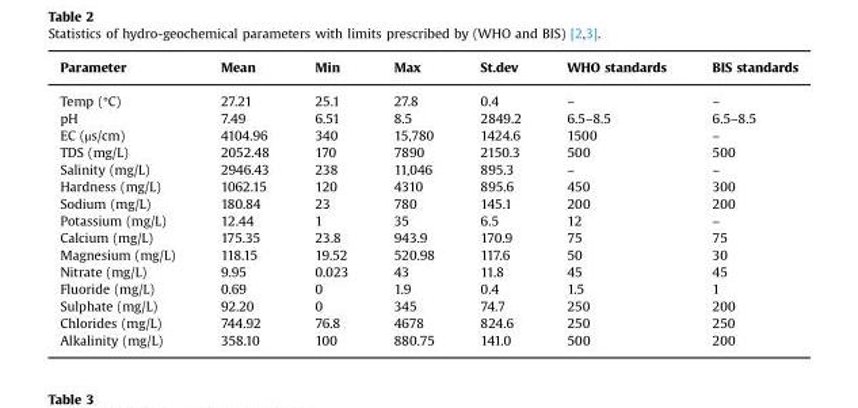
<table><thead><tr><td>Parameter</td><td>Mean</td><td>Min</td><td>Max</td><td>St.dev</td><td>WHO standards</td><td>BIS standards</td></tr></thead><tbody><tr><td>Temp (°C)</td><td>27.21</td><td>25.1</td><td>27.8</td><td>0.4</td><td>–</td><td>–</td></tr><tr><td>pH</td><td>7.49</td><td>6.51</td><td>8.5</td><td>2849.2</td><td>6.5–8.5</td><td>6.5–8.5</td></tr><tr><td>EC (µs/cm)</td><td>4104.96</td><td>340</td><td>15,780</td><td>1424.6</td><td>1500</td><td>–</td></tr><tr><td>TDS (mg/L)</td><td>2052.48</td><td>170</td><td>7890</td><td>2150.3</td><td>500</td><td>500</td></tr><tr><td>Salinity (mg/L)</td><td>2946.43</td><td>238</td><td>11,046</td><td>895.3</td><td>–</td><td>–</td></tr><tr><td>Hardness (mg/L)</td><td>1062.15</td><td>120</td><td>4310</td><td>895.6</td><td>450</td><td>300</td></tr><tr><td>Sodium (mg/L)</td><td>180.84</td><td>23</td><td>780</td><td>145.1</td><td>200</td><td>200</td></tr><tr><td>Potassium (mg/L)</td><td>12.44</td><td>1</td><td>35</td><td>6.5</td><td>12</td><td>–</td></tr><tr><td>Calcium (mg/L)</td><td>175.35</td><td>23.8</td><td>943.9</td><td>170.9</td><td>75</td><td>75</td></tr><tr><td>Magnesium (mg/L)</td><td>118.15</td><td>19.52</td><td>520.98</td><td>117.6</td><td>50</td><td>30</td></tr><tr><td>Nitrate (mg/L)</td><td>9.95</td><td>0.023</td><td>43</td><td>11.8</td><td>45</td><td>45</td></tr><tr><td>Fluoride (mg/L)</td><td>0.69</td><td>0</td><td>1.9</td><td>0.4</td><td>1.5</td><td>1</td></tr><tr><td>Sulphate (mg/L)</td><td>92.20</td><td>0</td><td>345</td><td>74.7</td><td>250</td><td>200</td></tr><tr><td>Chlorides (mg/L)</td><td>744.92</td><td>76.8</td><td>4678</td><td>824.6</td><td>250</td><td>250</td></tr><tr><td>Alkalinity (mg/L)</td><td>358.10</td><td>100</td><td>880.75</td><td>141.0</td><td>500</td><td>200</td></tr></tbody></table>